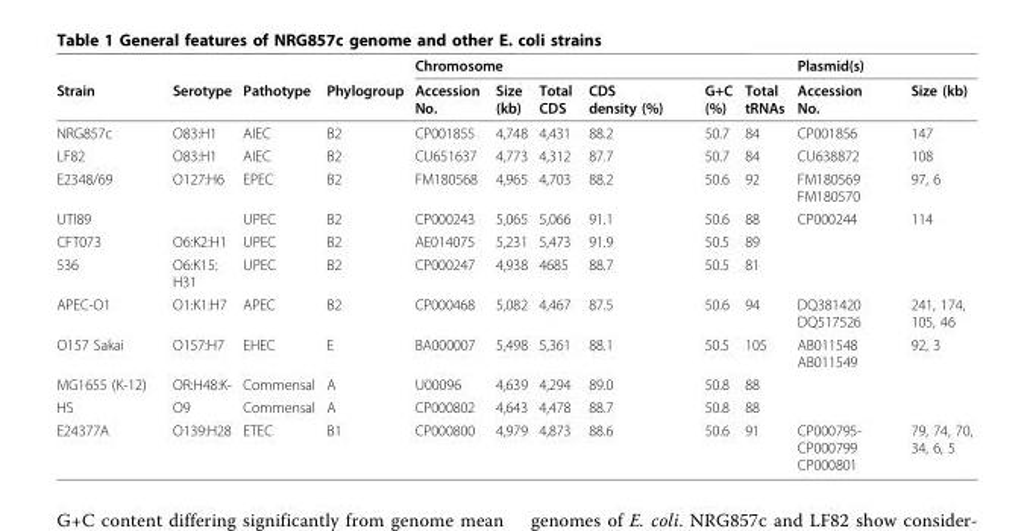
<table><thead><tr><td rowspan="2">Strain</td><td rowspan="2">Serotype</td><td rowspan="2">Pathotype</td><td rowspan="2">Phylogroup</td><td colspan="6">Chromosome</td><td colspan="2">Plasmid(s)</td></tr><tr><td>Accession No.</td><td>Size (kb)</td><td>Total CDS</td><td>CDS density (%)</td><td>G+C (%)</td><td>Total tRNAs</td><td>Accession No.</td><td>Size (kb)</td></tr></thead><tbody><tr><td>NRG857c</td><td>O83:H1</td><td>AIEC</td><td>B2</td><td>CP001855</td><td>4,748</td><td>4,431</td><td>88.2</td><td>50.7</td><td>84</td><td>CP001856</td><td>147</td></tr><tr><td>LF82</td><td>O83:H1</td><td>AIEC</td><td>B2</td><td>CU651637</td><td>4,773</td><td>4,312</td><td>87.7</td><td>50.7</td><td>84</td><td>CU638872</td><td>108</td></tr><tr><td>E2348/69</td><td>O127:H6</td><td>EPEC</td><td>B2</td><td>FM180568</td><td>4,965</td><td>4,703</td><td>88.2</td><td>50.6</td><td>92</td><td>FM180569 FM180570</td><td>97, 6</td></tr><tr><td>UTI89</td><td></td><td>UPEC</td><td>B2</td><td>CP000243</td><td>5,065</td><td>5,066</td><td>91.1</td><td>50.6</td><td>88</td><td>CP000244</td><td>114</td></tr><tr><td>CFT073</td><td>O6:K2:H1</td><td>UPEC</td><td>B2</td><td>AE014075</td><td>5,231</td><td>5,473</td><td>91.9</td><td>50.5</td><td>89</td><td></td><td></td></tr><tr><td>536</td><td>O6:K15: H31</td><td>UPEC</td><td>B2</td><td>CP000247</td><td>4,938</td><td>4685</td><td>88.7</td><td>50.5</td><td>81</td><td></td><td></td></tr><tr><td>APEC-O1</td><td>O1:K1:H7</td><td>APEC</td><td>B2</td><td>CP000468</td><td>5,082</td><td>4,467</td><td>87.5</td><td>50.6</td><td>94</td><td>DQ381420 DQ517526</td><td>241, 174, 105, 46</td></tr><tr><td>O157 Sakai</td><td>O157:H7</td><td>EHEC</td><td>E</td><td>BA000007</td><td>5,498</td><td>5,361</td><td>88.1</td><td>50.5</td><td>105</td><td>AB011548 AB011549</td><td>92, 3</td></tr><tr><td>MG1655 (K-12)</td><td>OR:H48:K-</td><td>Commensal</td><td>A</td><td>U00096</td><td>4,639</td><td>4,294</td><td>89.0</td><td>50.8</td><td>88</td><td></td><td></td></tr><tr><td>HS</td><td>O9</td><td>Commensal</td><td>A</td><td>CP000802</td><td>4,643</td><td>4,478</td><td>88.7</td><td>50.8</td><td>88</td><td></td><td></td></tr><tr><td>E24377A</td><td>O139:H28</td><td>ETEC</td><td>B1</td><td>CP000800</td><td>4,979</td><td>4,873</td><td>88.6</td><td>50.6</td><td>91</td><td>CP000795- CP000799 CP000801</td><td>79, 74, 70, 34, 6, 5</td></tr></tbody></table>